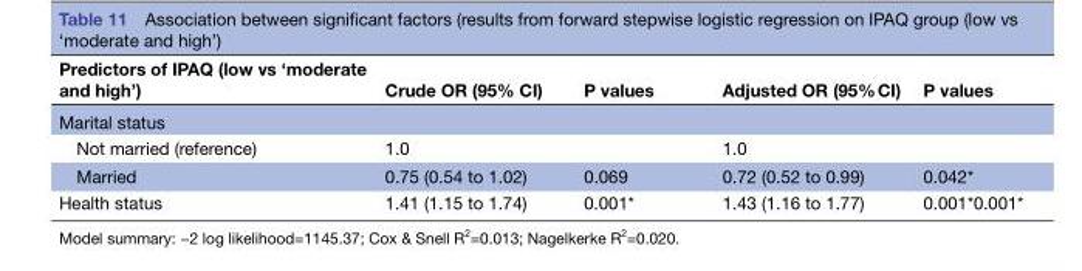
<table><thead><tr><td>Predictors of IPAQ (low vs ‘moderate and high’)</td><td>Crude OR (95% CI)</td><td>P values</td><td>Adjusted OR (95% CI)</td><td>P values</td></tr></thead><tbody><tr><td colspan="5">Marital status</td></tr><tr><td>Not married (reference)</td><td>1.0</td><td></td><td>1.0</td><td></td></tr><tr><td>Married</td><td>0.75 (0.54 to 1.02)</td><td>0.069</td><td>0.72 (0.52 to 0.99)</td><td>0.042*</td></tr><tr><td>Health status</td><td>1.41 (1.15 to 1.74)</td><td>0.001*</td><td>1.43 (1.16 to 1.77)</td><td>0.001*0.001*</td></tr></tbody></table>